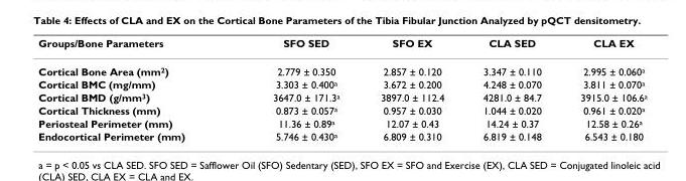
<table><thead><tr><td>Groups/Bone Parameters</td><td>SFO SED</td><td>SFO EX</td><td>CLA SED</td><td>CLA EX</td></tr></thead><tbody><tr><td>Cortical Bone Area (mm<sup>2</sup>)</td><td>2.779 ± 0.350</td><td>2.857 ± 0.120</td><td>3.347 ± 0.110</td><td>2.995 ± 0.060<sup>a</sup></td></tr><tr><td>Cortical BMC (mg/mm)</td><td>3.303 ± 0.400<sup>a</sup></td><td>3.672 ± 0.200</td><td>4.248 ± 0.070</td><td>3.811 ± 0.070<sup>a</sup></td></tr><tr><td>Cortical BMD (g/mm<sup>3</sup>)</td><td>3647.0 ± 171.3<sup>a</sup></td><td>3897.0 ± 112.4</td><td>4281.0 ± 84.7</td><td>3915.0 ± 106.6<sup>a</sup></td></tr><tr><td>Cortical Thickness (mm)</td><td>0.873 ± 0.057<sup>a</sup></td><td>0.957 ± 0.030</td><td>1.044 ± 0.020</td><td>0.961 ± 0.020<sup>a</sup></td></tr><tr><td>Periosteal Perimeter (mm)</td><td>11.36 ± 0.89<sup>a</sup></td><td>12.07 ± 0.43</td><td>14.24 ± 0.37</td><td>12.58 ± 0.26<sup>a</sup></td></tr><tr><td>Endocortical Perimeter (mm)</td><td>5.746 ± 0.430<sup>a</sup></td><td>6.809 ± 0.310</td><td>6.819 ± 0.148</td><td>6.543 ± 0.180</td></tr></tbody></table>